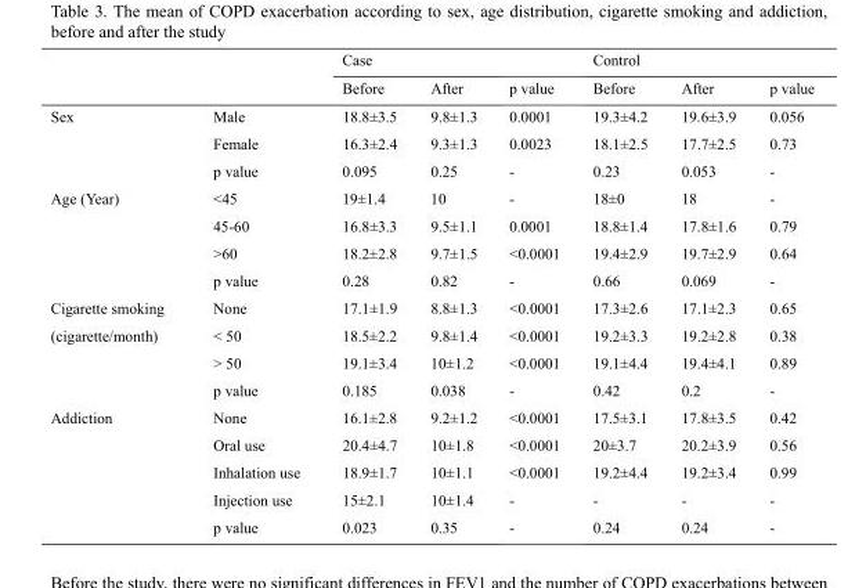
<table><thead><tr><td rowspan="2"></td><td rowspan="2"></td><td colspan="3">Case</td><td colspan="3">Control</td></tr><tr><td>Before</td><td>After</td><td>p value</td><td>Before</td><td>After</td><td>p value</td></tr></thead><tbody><tr><td rowspan="3">Sex</td><td>Male</td><td>18.8±3.5</td><td>9.8±1.3</td><td>0.0001</td><td>19.3±4.2</td><td>19.6±3.9</td><td>0.056</td></tr><tr><td>Female</td><td>16.3±2.4</td><td>9.3±1.3</td><td>0.0023</td><td>18.1±2.5</td><td>17.7±2.5</td><td>0.73</td></tr><tr><td>p value</td><td>0.095</td><td>0.25</td><td>-</td><td>0.23</td><td>0.053</td><td>-</td></tr><tr><td rowspan="4">Age (Year)</td><td>&lt;45</td><td>19±1.4</td><td>10</td><td>-</td><td>18±0</td><td>18</td><td>-</td></tr><tr><td>45-60</td><td>16.8±3.3</td><td>9.5±1.1</td><td>0.0001</td><td>18.8±1.4</td><td>17.8±1.6</td><td>0.79</td></tr><tr><td>&gt;60</td><td>18.2±2.8</td><td>9.7±1.5</td><td>&lt;0.0001</td><td>19.4±2.9</td><td>19.7±2.9</td><td>0.64</td></tr><tr><td>p value</td><td>0.28</td><td>0.82</td><td>-</td><td>0.66</td><td>0.069</td><td>-</td></tr><tr><td rowspan="4">Cigarette smoking (cigarette/month)</td><td>None</td><td>17.1±1.9</td><td>8.8±1.3</td><td>&lt;0.0001</td><td>17.3±2.6</td><td>17.1±2.3</td><td>0.65</td></tr><tr><td>&lt; 50</td><td>18.5±2.2</td><td>9.8±1.4</td><td>&lt;0.0001</td><td>19.2±3.3</td><td>19.2±2.8</td><td>0.38</td></tr><tr><td>&gt; 50</td><td>19.1±3.4</td><td>10±1.2</td><td>&lt;0.0001</td><td>19.1±4.4</td><td>19.4±4.1</td><td>0.89</td></tr><tr><td>p value</td><td>0.185</td><td>0.038</td><td>-</td><td>0.42</td><td>0.2</td><td>-</td></tr><tr><td rowspan="5">Addiction</td><td>None</td><td>16.1±2.8</td><td>9.2±1.2</td><td>&lt;0.0001</td><td>17.5±3.1</td><td>17.8±3.5</td><td>0.42</td></tr><tr><td>Oral use</td><td>20.4±4.7</td><td>10±1.8</td><td>&lt;0.0001</td><td>20±3.7</td><td>20.2±3.9</td><td>0.56</td></tr><tr><td>Inhalation use</td><td>18.9±1.7</td><td>10±1.1</td><td>&lt;0.0001</td><td>19.2±4.4</td><td>19.2±3.4</td><td>0.99</td></tr><tr><td>Injection use</td><td>15±2.1</td><td>10±1.4</td><td>-</td><td>-</td><td>-</td><td>-</td></tr><tr><td>p value</td><td>0.023</td><td>0.35</td><td>-</td><td>0.24</td><td>0.24</td><td>-</td></tr></tbody></table>